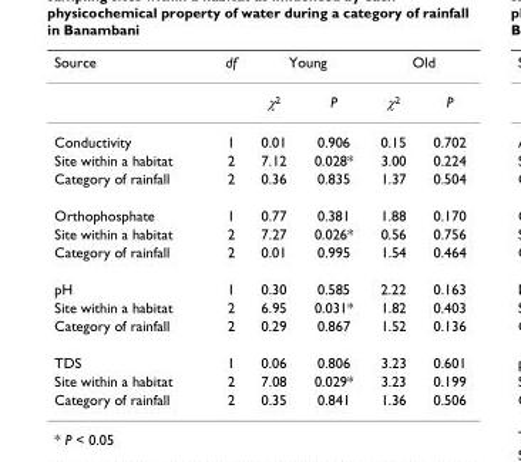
<table><thead><tr><td rowspan="2">Source</td><td rowspan="2">df</td><td colspan="2">Young</td><td colspan="2">Old</td></tr><tr><td>χ<sup>2</sup></td><td>P</td><td>χ<sup>2</sup></td><td>P</td></tr></thead><tbody><tr><td>Conductivity</td><td>1</td><td>0.01</td><td>0.906</td><td>0.15</td><td>0.702</td></tr><tr><td>Site within a habitat</td><td>2</td><td>7.12</td><td>0.028*</td><td>3.00</td><td>0.224</td></tr><tr><td>Category of rainfall</td><td>2</td><td>0.36</td><td>0.835</td><td>1.37</td><td>0.504</td></tr><tr><td>Orthophosphate</td><td>1</td><td>0.77</td><td>0.381</td><td>1.88</td><td>0.170</td></tr><tr><td>Site within a habitat</td><td>2</td><td>7.27</td><td>0.026*</td><td>0.56</td><td>0.756</td></tr><tr><td>Category of rainfall</td><td>2</td><td>0.01</td><td>0.995</td><td>1.54</td><td>0.464</td></tr><tr><td>pH</td><td>1</td><td>0.30</td><td>0.585</td><td>2.22</td><td>0.163</td></tr><tr><td>Site within a habitat</td><td>2</td><td>6.95</td><td>0.031*</td><td>1.82</td><td>0.403</td></tr><tr><td>Category of rainfall</td><td>2</td><td>0.29</td><td>0.867</td><td>1.52</td><td>0.136</td></tr><tr><td>TDS</td><td>1</td><td>0.06</td><td>0.806</td><td>3.23</td><td>0.601</td></tr><tr><td>Site within a habitat</td><td>2</td><td>7.08</td><td>0.029*</td><td>3.23</td><td>0.199</td></tr><tr><td>Category of rainfall</td><td>2</td><td>0.35</td><td>0.841</td><td>1.36</td><td>0.506</td></tr></tbody></table>